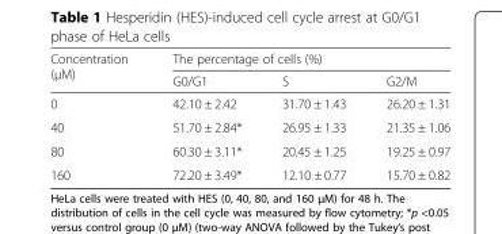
<table><thead><tr><td rowspan="2">Concentration (μM)</td><td colspan="3">The percentage of cells (%)</td></tr><tr><td>G0/G1</td><td>S</td><td>G2/M</td></tr></thead><tbody><tr><td>0</td><td>42.10 ± 2.42</td><td>31.70 ± 1.43</td><td>26.20 ± 1.31</td></tr><tr><td>40</td><td>51.70 ± 2.84*</td><td>26.95 ± 1.33</td><td>21.35 ± 1.06</td></tr><tr><td>80</td><td>60.30 ± 3.11*</td><td>20.45 ± 1.25</td><td>19.25 ± 0.97</td></tr><tr><td>160</td><td>72.20 ± 3.49*</td><td>12.10 ± 0.77</td><td>15.70 ± 0.82</td></tr></tbody></table>